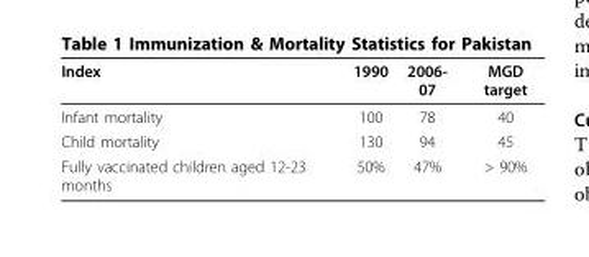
<table><thead><tr><td>Index</td><td>1990</td><td>2006- 07</td><td>MGD target</td></tr></thead><tbody><tr><td>Infant mortality</td><td>100</td><td>78</td><td>40</td></tr><tr><td>Child mortality</td><td>130</td><td>94</td><td>45</td></tr><tr><td>Fully vaccinated children aged 12-23 months</td><td>50%</td><td>47%</td><td>&gt; 90%</td></tr></tbody></table>